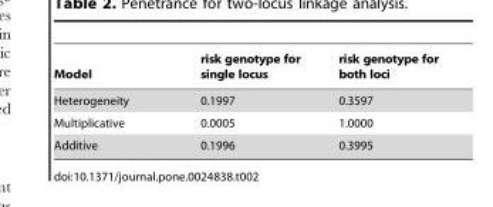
<table><thead><tr><td>Model</td><td>risk genotype for single locus</td><td>risk genotype for both loci</td></tr></thead><tbody><tr><td>Heterogeneity</td><td>0.1997</td><td>0.3597</td></tr><tr><td>Multiplicative</td><td>0.0005</td><td>1.0000</td></tr><tr><td>Additive</td><td>0.1996</td><td>0.3995</td></tr></tbody></table>